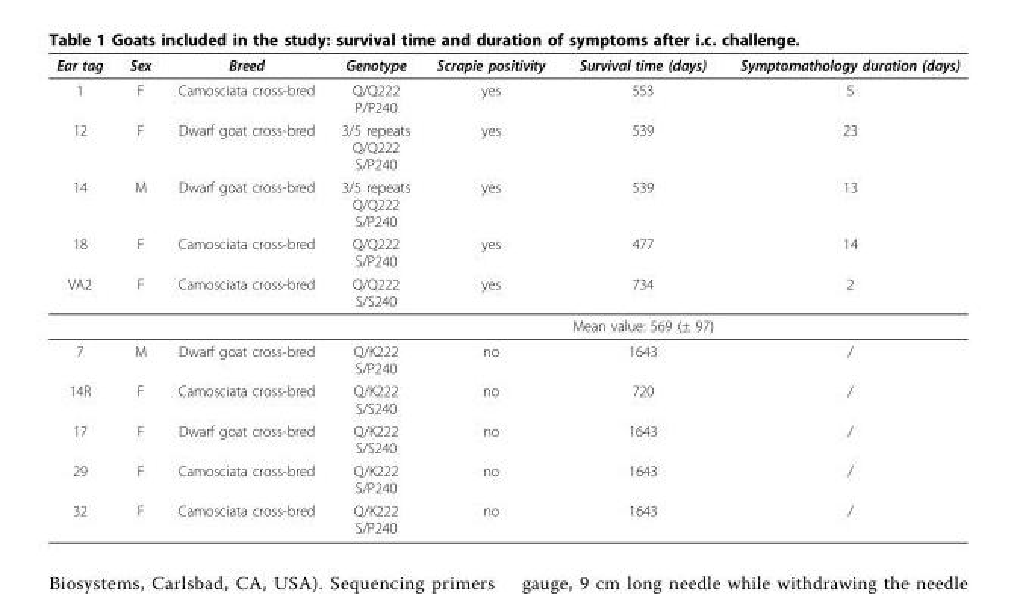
<table><thead><tr><td>Ear tag</td><td>Sex</td><td>Breed</td><td>Genotype</td><td>Scrapie positivity</td><td>Survival time (days)</td><td>Symptomathology duration (days)</td></tr></thead><tbody><tr><td>1</td><td>F</td><td>Camosciata cross-bred</td><td>Q/Q222 P/P240</td><td>yes</td><td>553</td><td>5</td></tr><tr><td>12</td><td>F</td><td>Dwarf goat cross-bred</td><td>3/5 repeats Q/Q222 S/P240</td><td>yes</td><td>539</td><td>23</td></tr><tr><td>14</td><td>M</td><td>Dwarf goat cross-bred</td><td>3/5 repeats Q/Q222 S/P240</td><td>yes</td><td>539</td><td>13</td></tr><tr><td>18</td><td>F</td><td>Camosciata cross-bred</td><td>Q/Q222 S/P240</td><td>yes</td><td>477</td><td>14</td></tr><tr><td rowspan="2">VA2</td><td>F</td><td>Camosciata cross-bred</td><td>Q/Q222 S/S240</td><td>yes</td><td>734</td><td>2</td></tr><tr><td></td><td></td><td></td><td></td><td>Mean value: 569 (± 97)</td><td></td></tr><tr><td>7</td><td>M</td><td>Dwarf goat cross-bred</td><td>Q/K222 S/P240</td><td>no</td><td>1643</td><td>/</td></tr><tr><td>14R</td><td>F</td><td>Camosciata cross-bred</td><td>Q/K222 S/S240</td><td>no</td><td>720</td><td>/</td></tr><tr><td>17</td><td>F</td><td>Dwarf goat cross-bred</td><td>Q/K222 S/S240</td><td>no</td><td>1643</td><td>/</td></tr><tr><td>29</td><td>F</td><td>Camosciata cross-bred</td><td>Q/K222 S/P240</td><td>no</td><td>1643</td><td>/</td></tr><tr><td>32</td><td>F</td><td>Camosciata cross-bred</td><td>Q/K222 S/P240</td><td>no</td><td>1643</td><td>/</td></tr></tbody></table>